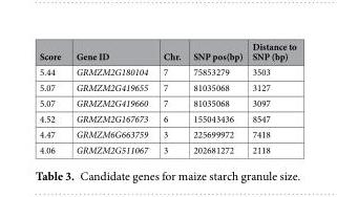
<table><thead><tr><td>Score</td><td>Gene ID</td><td>Chr.</td><td>SNP pos(bp)</td><td>Distance to SNP (bp)</td></tr></thead><tbody><tr><td>5.44</td><td>GRMZM2G180104</td><td>7</td><td>75853279</td><td>3503</td></tr><tr><td>5.07</td><td>GRMZM2G419655</td><td>7</td><td>81035068</td><td>3127</td></tr><tr><td>5.07</td><td>GRMZM2G419660</td><td>7</td><td>81035068</td><td>3097</td></tr><tr><td>4.52</td><td>GRMZM2G167673</td><td>6</td><td>155043436</td><td>8547</td></tr><tr><td>4.47</td><td>GRMZM6G663759</td><td>3</td><td>225699972</td><td>7418</td></tr><tr><td>4.06</td><td>GRMZM2G511067</td><td>3</td><td>202681272</td><td>2118</td></tr></tbody></table>